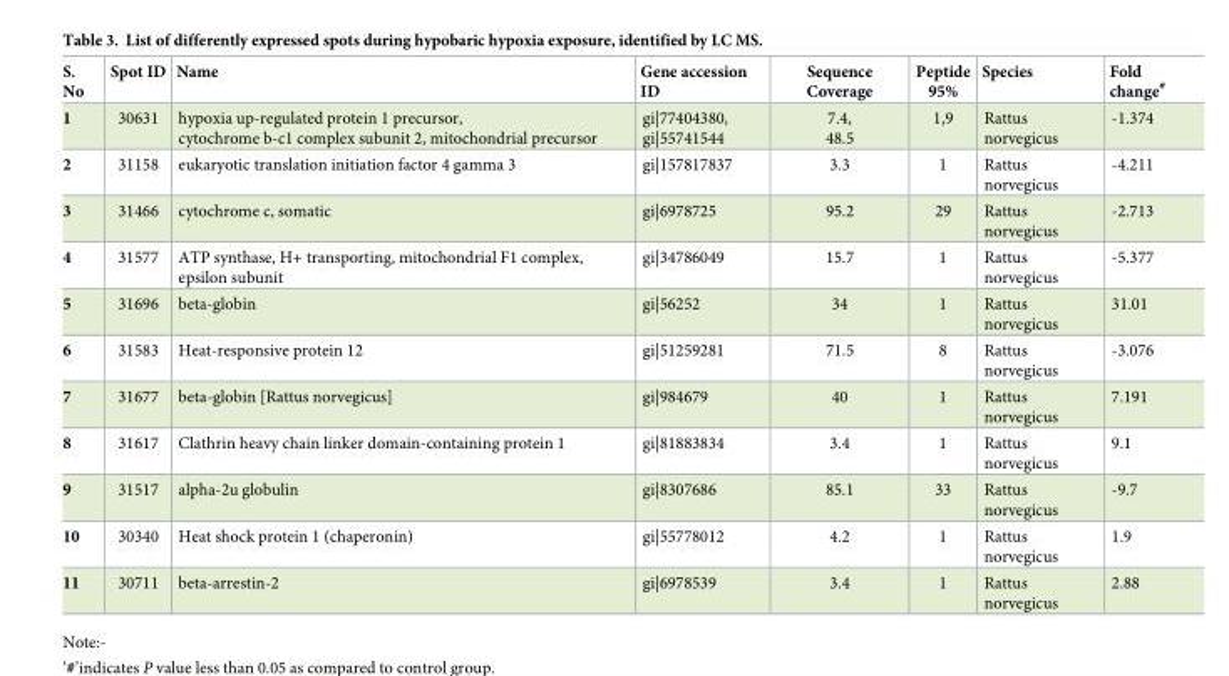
<table><thead><tr><td>S. No</td><td>Spot ID</td><td>Name</td><td>Gene accession ID</td><td>Sequence Coverage</td><td>Peptide 95%</td><td>Species</td><td>Fold change<sup>#</sup></td></tr></thead><tbody><tr><td>1</td><td>30631</td><td>hypoxia up-regulated protein 1 precursor, cytochrome b-c1 complex subunit 2, mitochondrial precursor</td><td>gi|77404380, gi|55741544</td><td>7.4, 48.5</td><td>1,9</td><td>Rattus norvegicus</td><td>-1.374</td></tr><tr><td>2</td><td>31158</td><td>eukaryotic translation initiation factor 4 gamma 3</td><td>gi|157817837</td><td>3.3</td><td>1</td><td>Rattus norvegicus</td><td>-4.211</td></tr><tr><td>3</td><td>31466</td><td>cytochrome c, somatic</td><td>gi|6978725</td><td>95.2</td><td>29</td><td>Rattus norvegicus</td><td>-2.713</td></tr><tr><td>4</td><td>31577</td><td>ATP synthase, H+ transporting, mitochondrial F1 complex, epsilon subunit</td><td>gi|34786049</td><td>15.7</td><td>1</td><td>Rattus norvegicus</td><td>-5.377</td></tr><tr><td>5</td><td>31696</td><td>beta-globin</td><td>gi|56252</td><td>34</td><td>1</td><td>Rattus norvegicus</td><td>31.01</td></tr><tr><td>6</td><td>31583</td><td>Heat-responsive protein 12</td><td>gi|51259281</td><td>71.5</td><td>8</td><td>Rattus norvegicus</td><td>-3.076</td></tr><tr><td>7</td><td>31677</td><td>beta-globin [Rattus norvegicus]</td><td>gi|984679</td><td>40</td><td>1</td><td>Rattus norvegicus</td><td>7.191</td></tr><tr><td>8</td><td>31617</td><td>Clathrin heavy chain linker domain-containing protein 1</td><td>gi|81883834</td><td>3.4</td><td>1</td><td>Rattus norvegicus</td><td>9.1</td></tr><tr><td>9</td><td>31517</td><td>alpha-2u globulin</td><td>gi|8307686</td><td>85.1</td><td>33</td><td>Rattus norvegicus</td><td>-9.7</td></tr><tr><td>10</td><td>30340</td><td>Heat shock protein 1 (chaperonin)</td><td>gi|55778012</td><td>4.2</td><td>1</td><td>Rattus norvegicus</td><td>1.9</td></tr><tr><td>11</td><td>30711</td><td>beta-arrestin-2</td><td>gi|6978539</td><td>3.4</td><td>1</td><td>Rattus norvegicus</td><td>2.88</td></tr></tbody></table>